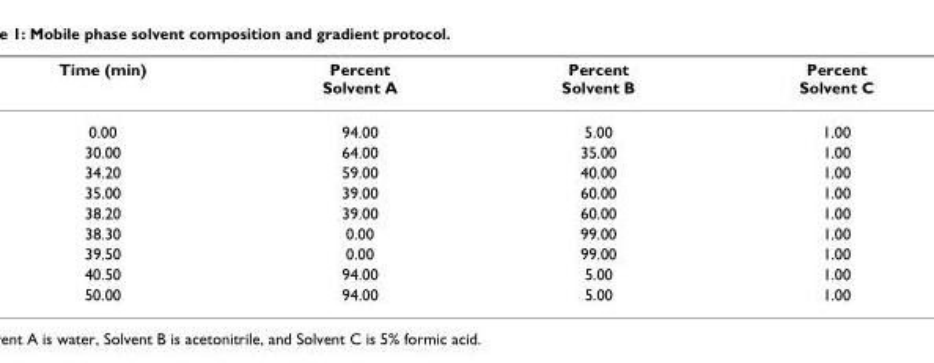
<table><thead><tr><td>Time (min)</td><td>Percent Solvent A</td><td>Percent Solvent B</td><td>Percent Solvent C</td></tr></thead><tbody><tr><td>0.00</td><td>94.00</td><td>5.00</td><td>1.00</td></tr><tr><td>30.00</td><td>64.00</td><td>35.00</td><td>1.00</td></tr><tr><td>34.20</td><td>59.00</td><td>40.00</td><td>1.00</td></tr><tr><td>35.00</td><td>39.00</td><td>60.00</td><td>1.00</td></tr><tr><td>38.20</td><td>39.00</td><td>60.00</td><td>1.00</td></tr><tr><td>38.30</td><td>0.00</td><td>99.00</td><td>1.00</td></tr><tr><td>39.50</td><td>0.00</td><td>99.00</td><td>1.00</td></tr><tr><td>40.50</td><td>94.00</td><td>5.00</td><td>1.00</td></tr><tr><td>50.00</td><td>94.00</td><td>5.00</td><td>1.00</td></tr></tbody></table>